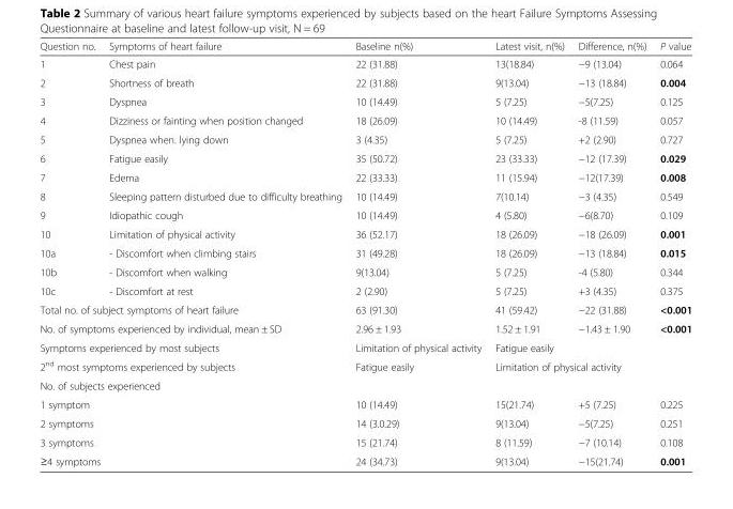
<table><thead><tr><td>Question no.</td><td>Symptoms of heart failure</td><td>Baseline n(%)</td><td>Latest visit, n(%)</td><td>Difference, n(%)</td><td>P value</td></tr></thead><tbody><tr><td>1</td><td>Chest pain</td><td>22 (31.88)</td><td>13(18.84)</td><td>−9 (13.04)</td><td>0.064</td></tr><tr><td>2</td><td>Shortness of breath</td><td>22 (31.88)</td><td>9(13.04)</td><td>−13 (18.84)</td><td>0.004</td></tr><tr><td>3</td><td>Dyspnea</td><td>10 (14.49)</td><td>5 (7.25)</td><td>−5(7.25)</td><td>0.125</td></tr><tr><td>4</td><td>Dizziness or fainting when position changed</td><td>18 (26.09)</td><td>10 (14.49)</td><td>-8 (11.59)</td><td>0.057</td></tr><tr><td>5</td><td>Dyspnea when. lying down</td><td>3 (4.35)</td><td>5 (7.25)</td><td>+2 (2.90)</td><td>0.727</td></tr><tr><td>6</td><td>Fatigue easily</td><td>35 (50.72)</td><td>23 (33.33)</td><td>−12 (17.39)</td><td>0.029</td></tr><tr><td>7</td><td>Edema</td><td>22 (33.33)</td><td>11 (15.94)</td><td>−12(17.39)</td><td>0.008</td></tr><tr><td>8</td><td>Sleeping pattern disturbed due to difficulty breathing</td><td>10 (14.49)</td><td>7(10.14)</td><td>−3 (4.35)</td><td>0.549</td></tr><tr><td>9</td><td>Idiopathic cough</td><td>10 (14.49)</td><td>4 (5.80)</td><td>−6(8.70)</td><td>0.109</td></tr><tr><td>10</td><td>Limitation of physical activity</td><td>36 (52.17)</td><td>18 (26.09)</td><td>−18 (26.09)</td><td>0.001</td></tr><tr><td>10a</td><td>- Discomfort when climbing stairs</td><td>31 (49.28)</td><td>18 (26.09)</td><td>−13 (18.84)</td><td>0.015</td></tr><tr><td>10b</td><td>- Discomfort when walking</td><td>9(13.04)</td><td>5 (7.25)</td><td>-4 (5.80)</td><td>0.344</td></tr><tr><td>10c</td><td>- Discomfort at rest</td><td>2 (2.90)</td><td>5 (7.25)</td><td>+3 (4.35)</td><td>0.375</td></tr><tr><td colspan="2">Total no. of subject symptoms of heart failure</td><td>63 (91.30)</td><td>41 (59.42)</td><td>−22 (31.88)</td><td>&lt;0.001</td></tr><tr><td colspan="2">No. of symptoms experienced by individual, mean ± SD</td><td>2.96 ± 1.93</td><td>1.52 ± 1.91</td><td>−1.43 ± 1.90</td><td>&lt;0.001</td></tr><tr><td colspan="2">Symptoms experienced by most subjects</td><td>Limitation of physical activity</td><td colspan="3">Fatigue easily</td></tr><tr><td colspan="2">2<sup>nd</sup> most symptoms experienced by subjects</td><td>Fatigue easily</td><td colspan="3">Limitation of physical activity</td></tr><tr><td colspan="6">No. of subjects experienced</td></tr><tr><td colspan="2">1 symptom</td><td>10 (14.49)</td><td>15(21.74)</td><td>+5 (7.25)</td><td>0.225</td></tr><tr><td colspan="2">2 symptoms</td><td>14 (3.0.29)</td><td>9(13.04)</td><td>−5(7.25)</td><td>0.251</td></tr><tr><td colspan="2">3 symptoms</td><td>15 (21.74)</td><td>8 (11.59)</td><td>−7 (10.14)</td><td>0.108</td></tr><tr><td colspan="2">≥4 symptoms</td><td>24 (34.73)</td><td>9(13.04)</td><td>−15(21.74)</td><td>0.001</td></tr></tbody></table>